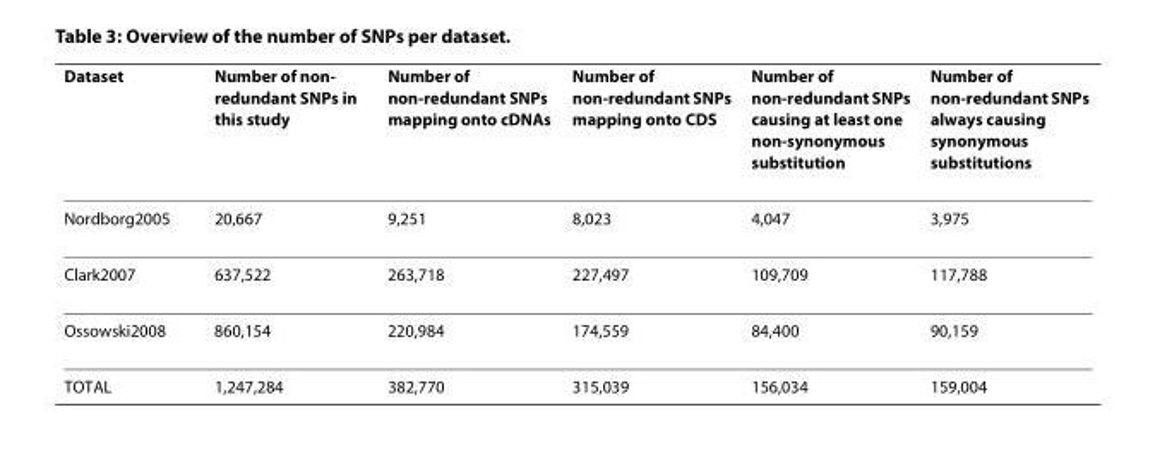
<table><thead><tr><td>Dataset</td><td>Number of non- redundant SNPs in this study</td><td>Number of non-redundant SNPs mapping onto cDNAs</td><td>Number of non-redundant SNPs mapping onto CDS</td><td>Number of non-redundant SNPs causing at least one non-synonymous substitution</td><td>Number of non-redundant SNPs always causing synonymous substitutions</td></tr></thead><tbody><tr><td>Nordborg2005</td><td>20,667</td><td>9,251</td><td>8,023</td><td>4,047</td><td>3,975</td></tr><tr><td>Clark2007</td><td>637,522</td><td>263,718</td><td>227,497</td><td>109,709</td><td>117,788</td></tr><tr><td>Ossowski2008</td><td>860,154</td><td>220,984</td><td>174,559</td><td>84,400</td><td>90,159</td></tr><tr><td>TOTAL</td><td>1,247,284</td><td>382,770</td><td>315,039</td><td>156,034</td><td>159,004</td></tr></tbody></table>